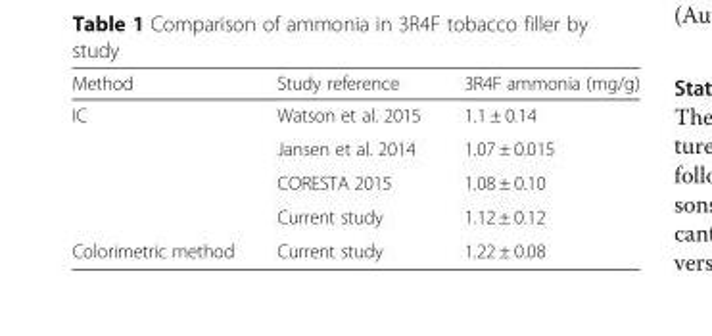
<table><thead><tr><td>Method</td><td>Study reference</td><td>3R4F ammonia (mg/g)</td></tr></thead><tbody><tr><td rowspan="4">IC</td><td>Watson et al. 2015</td><td>1.1 ± 0.14</td></tr><tr><td>Jansen et al. 2014</td><td>1.07 ± 0.015</td></tr><tr><td>CORESTA 2015</td><td>1.08 ± 0.10</td></tr><tr><td>Current study</td><td>1.12 ± 0.12</td></tr><tr><td>Colorimetric method</td><td>Current study</td><td>1.22 ± 0.08</td></tr></tbody></table>